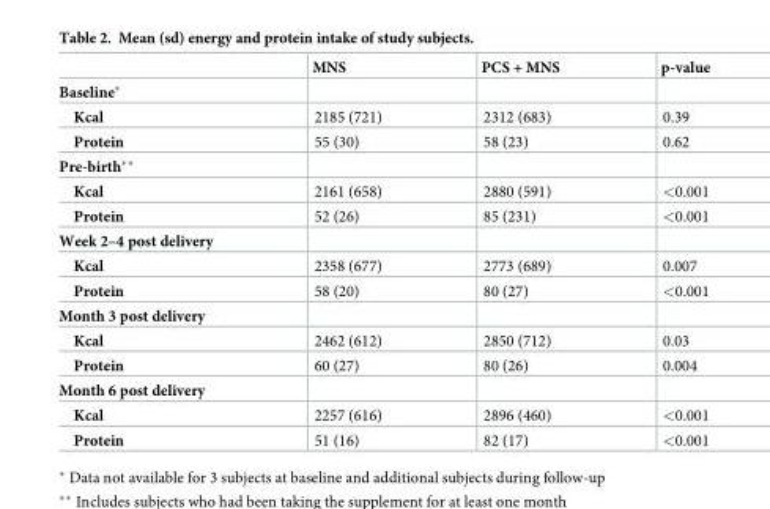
<table><thead><tr><td></td><td>MNS</td><td>PCS + MNS</td><td>p-value</td></tr></thead><tbody><tr><td colspan="4">Baseline*</td></tr><tr><td>Kcal</td><td>2185 (721)</td><td>2312 (683)</td><td>0.39</td></tr><tr><td>Protein</td><td>55 (30)</td><td>58 (23)</td><td>0.62</td></tr><tr><td colspan="4">Pre-birth**</td></tr><tr><td>Kcal</td><td>2161 (658)</td><td>2880 (591)</td><td>&lt;0.001</td></tr><tr><td>Protein</td><td>52 (26)</td><td>85 (231)</td><td>&lt;0.001</td></tr><tr><td colspan="4">Week 2–4 post delivery</td></tr><tr><td>Kcal</td><td>2358 (677)</td><td>2773 (689)</td><td>0.007</td></tr><tr><td>Protein</td><td>58 (20)</td><td>80 (27)</td><td>&lt;0.001</td></tr><tr><td colspan="4">Month 3 post delivery</td></tr><tr><td>Kcal</td><td>2462 (612)</td><td>2850 (712)</td><td>0.03</td></tr><tr><td>Protein</td><td>60 (27)</td><td>80 (26)</td><td>0.004</td></tr><tr><td colspan="4">Month 6 post delivery</td></tr><tr><td>Kcal</td><td>2257 (616)</td><td>2896 (460)</td><td>&lt;0.001</td></tr><tr><td>Protein</td><td>51 (16)</td><td>82 (17)</td><td>&lt;0.001</td></tr></tbody></table>